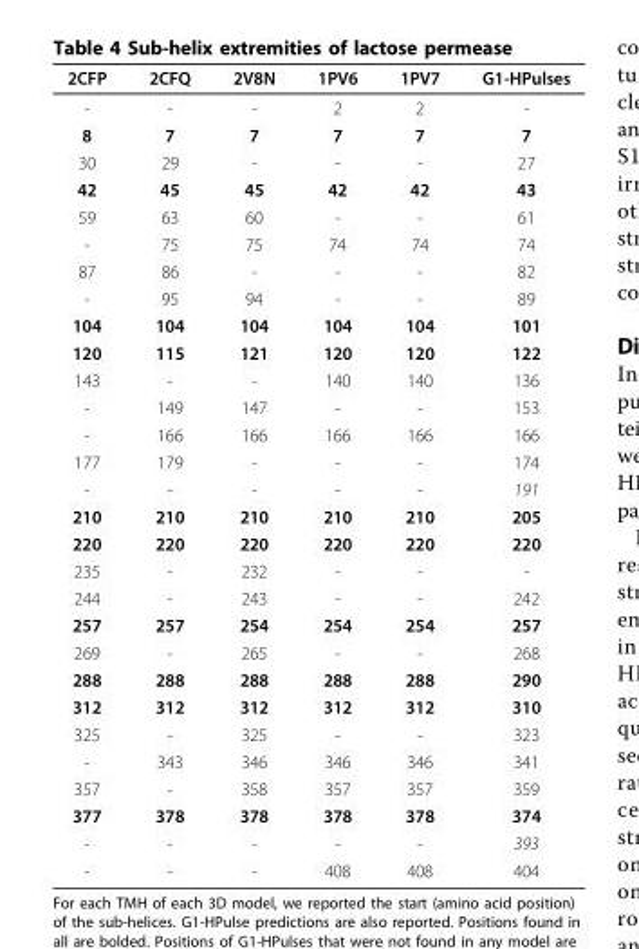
<table><thead><tr><td>2CFP</td><td>2CFQ</td><td>2V8N</td><td>1PV6</td><td>1PV7</td><td>G1-HPulses</td></tr></thead><tbody><tr><td>-</td><td>-</td><td>-</td><td>2</td><td>2</td><td>-</td></tr><tr><td>8</td><td>7</td><td>7</td><td>7</td><td>7</td><td>7</td></tr><tr><td>30</td><td>29</td><td>-</td><td>-</td><td>-</td><td>27</td></tr><tr><td>42</td><td>45</td><td>45</td><td>42</td><td>42</td><td>43</td></tr><tr><td>59</td><td>63</td><td>60</td><td>-</td><td>-</td><td>61</td></tr><tr><td>-</td><td>75</td><td>75</td><td>74</td><td>74</td><td>74</td></tr><tr><td>87</td><td>86</td><td>-</td><td>-</td><td>-</td><td>82</td></tr><tr><td>-</td><td>95</td><td>94</td><td>-</td><td>-</td><td>89</td></tr><tr><td>104</td><td>104</td><td>104</td><td>104</td><td>104</td><td>101</td></tr><tr><td>120</td><td>115</td><td>121</td><td>120</td><td>120</td><td>122</td></tr><tr><td>143</td><td>-</td><td>-</td><td>140</td><td>140</td><td>136</td></tr><tr><td>-</td><td>149</td><td>147</td><td>-</td><td>-</td><td>153</td></tr><tr><td>-</td><td>166</td><td>166</td><td>166</td><td>166</td><td>166</td></tr><tr><td>177</td><td>179</td><td>-</td><td>-</td><td>-</td><td>174</td></tr><tr><td>-</td><td>-</td><td>-</td><td>-</td><td>-</td><td>191</td></tr><tr><td>210</td><td>210</td><td>210</td><td>210</td><td>210</td><td>205</td></tr><tr><td>220</td><td>220</td><td>220</td><td>220</td><td>220</td><td>220</td></tr><tr><td>235</td><td>-</td><td>232</td><td>-</td><td>-</td><td>-</td></tr><tr><td>244</td><td>-</td><td>243</td><td>-</td><td>-</td><td>242</td></tr><tr><td>257</td><td>257</td><td>254</td><td>254</td><td>254</td><td>257</td></tr><tr><td>269</td><td>-</td><td>265</td><td>-</td><td>-</td><td>268</td></tr><tr><td>288</td><td>288</td><td>288</td><td>288</td><td>288</td><td>290</td></tr><tr><td>312</td><td>312</td><td>312</td><td>312</td><td>312</td><td>310</td></tr><tr><td>325</td><td>-</td><td>325</td><td>-</td><td>-</td><td>323</td></tr><tr><td>-</td><td>343</td><td>346</td><td>346</td><td>346</td><td>341</td></tr><tr><td>357</td><td>-</td><td>358</td><td>357</td><td>357</td><td>359</td></tr><tr><td>377</td><td>378</td><td>378</td><td>378</td><td>378</td><td>374</td></tr><tr><td>-</td><td>-</td><td>-</td><td>-</td><td>-</td><td>393</td></tr><tr><td>-</td><td>-</td><td>-</td><td>408</td><td>408</td><td>404</td></tr></tbody></table>